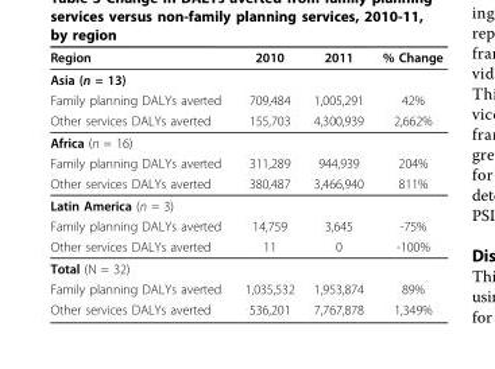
<table><thead><tr><td>Region</td><td>2010</td><td>2011</td><td>% Change</td></tr></thead><tbody><tr><td colspan="4">Asia (n = 13)</td></tr><tr><td>Family planning DALYs averted</td><td>709,484</td><td>1,005,291</td><td>42%</td></tr><tr><td>Other services DALYs averted</td><td>155,703</td><td>4,300,939</td><td>2,662%</td></tr><tr><td colspan="4">Africa (n = 16)</td></tr><tr><td>Family planning DALYs averted</td><td>311,289</td><td>944,939</td><td>204%</td></tr><tr><td>Other services DALYs averted</td><td>380,487</td><td>3,466,940</td><td>811%</td></tr><tr><td colspan="4">Latin America (n = 3)</td></tr><tr><td>Family planning DALYs averted</td><td>14,759</td><td>3,645</td><td>-75%</td></tr><tr><td>Other services DALYs averted</td><td>11</td><td>0</td><td>-100%</td></tr><tr><td colspan="4">Total (N = 32)</td></tr><tr><td>Family planning DALYs averted</td><td>1,035,532</td><td>1,953,874</td><td>89%</td></tr><tr><td>Other services DALYs averted</td><td>536,201</td><td>7,767,878</td><td>1,349%</td></tr></tbody></table>